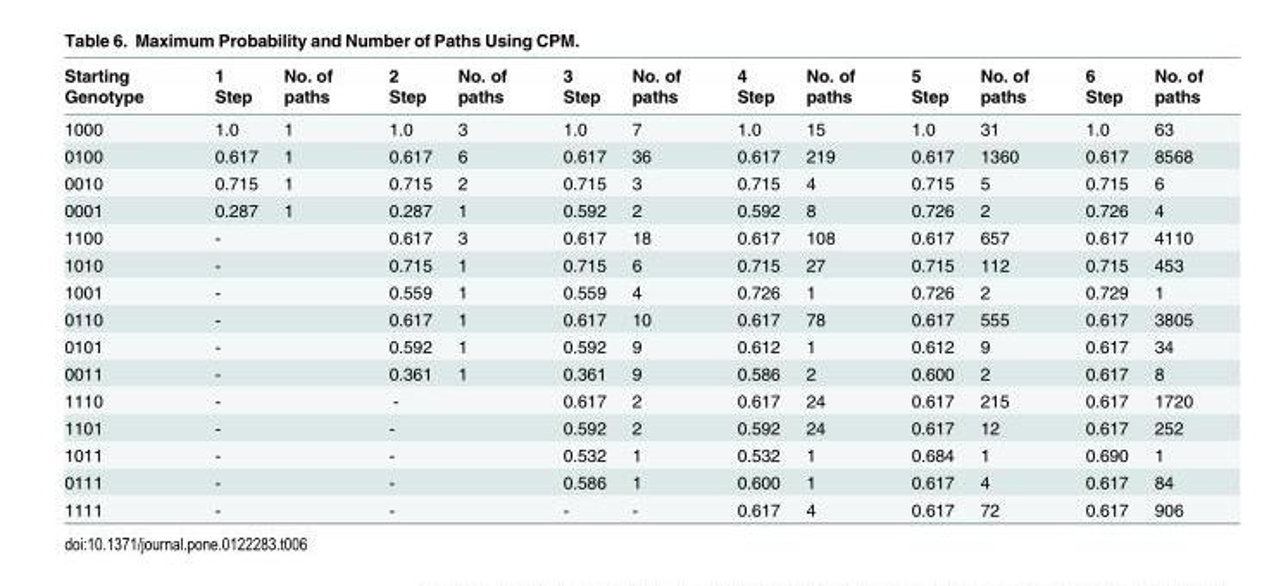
<table><thead><tr><td>Starting Genotype</td><td>1 Step</td><td>No. of paths</td><td>2 Step</td><td>No. of paths</td><td>3 Step</td><td>No. of paths</td><td>4 Step</td><td>No. of paths</td><td>5 Step</td><td>No. of paths</td><td>6 Step</td><td>No. of paths</td></tr></thead><tbody><tr><td>1000</td><td>1.0</td><td>1</td><td>1.0</td><td>3</td><td>1.0</td><td>7</td><td>1.0</td><td>15</td><td>1.0</td><td>31</td><td>1.0</td><td>63</td></tr><tr><td>0100</td><td>0.617</td><td>1</td><td>0.617</td><td>6</td><td>0.617</td><td>36</td><td>0.617</td><td>219</td><td>0.617</td><td>1360</td><td>0.617</td><td>8568</td></tr><tr><td>0010</td><td>0.715</td><td>1</td><td>0.715</td><td>2</td><td>0.715</td><td>3</td><td>0.715</td><td>4</td><td>0.715</td><td>5</td><td>0.715</td><td>6</td></tr><tr><td>0001</td><td>0.287</td><td>1</td><td>0.287</td><td>1</td><td>0.592</td><td>2</td><td>0.592</td><td>8</td><td>0.726</td><td>2</td><td>0.726</td><td>4</td></tr><tr><td>1100</td><td>-</td><td></td><td>0.617</td><td>3</td><td>0.617</td><td>18</td><td>0.617</td><td>108</td><td>0.617</td><td>657</td><td>0.617</td><td>4110</td></tr><tr><td>1010</td><td>-</td><td></td><td>0.715</td><td>1</td><td>0.715</td><td>6</td><td>0.715</td><td>27</td><td>0.715</td><td>112</td><td>0.715</td><td>453</td></tr><tr><td>1001</td><td>-</td><td></td><td>0.559</td><td>1</td><td>0.559</td><td>4</td><td>0.726</td><td>1</td><td>0.726</td><td>2</td><td>0.729</td><td>1</td></tr><tr><td>0110</td><td>-</td><td></td><td>0.617</td><td>1</td><td>0.617</td><td>10</td><td>0.617</td><td>78</td><td>0.617</td><td>555</td><td>0.617</td><td>3805</td></tr><tr><td>0101</td><td>-</td><td></td><td>0.592</td><td>1</td><td>0.592</td><td>9</td><td>0.612</td><td>1</td><td>0.612</td><td>9</td><td>0.617</td><td>34</td></tr><tr><td>0011</td><td>-</td><td></td><td>0.361</td><td>1</td><td>0.361</td><td>9</td><td>0.586</td><td>2</td><td>0.600</td><td>2</td><td>0.617</td><td>8</td></tr><tr><td>1110</td><td>-</td><td></td><td>-</td><td></td><td>0.617</td><td>2</td><td>0.617</td><td>24</td><td>0.617</td><td>215</td><td>0.617</td><td>1720</td></tr><tr><td>1101</td><td>-</td><td></td><td>-</td><td></td><td>0.592</td><td>2</td><td>0.592</td><td>24</td><td>0.617</td><td>12</td><td>0.617</td><td>252</td></tr><tr><td>1011</td><td>-</td><td></td><td>-</td><td></td><td>0.532</td><td>1</td><td>0.532</td><td>1</td><td>0.684</td><td>1</td><td>0.690</td><td>1</td></tr><tr><td>0111</td><td>-</td><td></td><td>-</td><td></td><td>0.586</td><td>1</td><td>0.600</td><td>1</td><td>0.617</td><td>4</td><td>0.617</td><td>84</td></tr><tr><td>1111</td><td>-</td><td></td><td>-</td><td></td><td>-</td><td>-</td><td>0.617</td><td>4</td><td>0.617</td><td>72</td><td>0.617</td><td>906</td></tr></tbody></table>